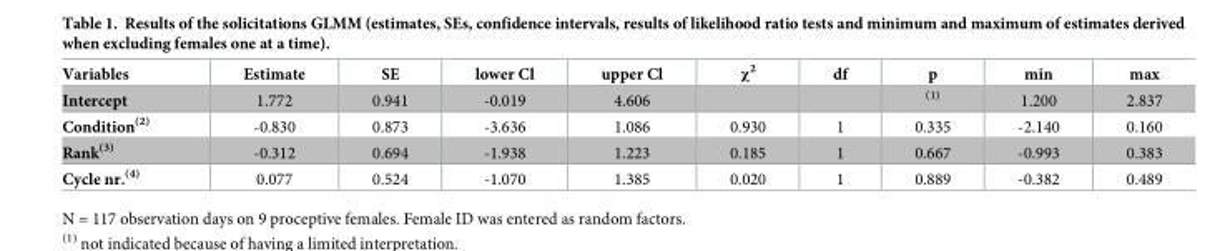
<table><thead><tr><td>Variables</td><td>Estimate</td><td>SE</td><td>lower Cl</td><td>upper Cl</td><td>χ<sup>2</sup></td><td>df</td><td>p</td><td>min</td><td>max</td></tr></thead><tbody><tr><td>Intercept</td><td>1.772</td><td>0.941</td><td>-0.019</td><td>4.606</td><td></td><td></td><td><sup>(1)</sup></td><td>1.200</td><td>2.837</td></tr><tr><td>Condition<sup>(2)</sup></td><td>-0.830</td><td>0.873</td><td>-3.636</td><td>1.086</td><td>0.930</td><td>1</td><td>0.335</td><td>-2.140</td><td>0.160</td></tr><tr><td>Rank<sup>(3)</sup></td><td>-0.312</td><td>0.694</td><td>-1.938</td><td>1.223</td><td>0.185</td><td>1</td><td>0.667</td><td>-0.993</td><td>0.383</td></tr><tr><td>Cycle nr.<sup>(4)</sup></td><td>0.077</td><td>0.524</td><td>-1.070</td><td>1.385</td><td>0.020</td><td>1</td><td>0.889</td><td>-0.382</td><td>0.489</td></tr></tbody></table>